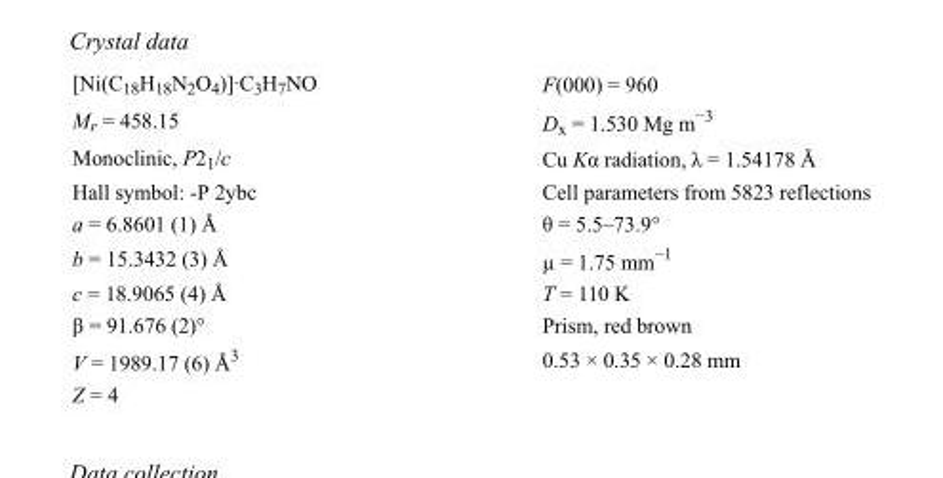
<table><tbody><tr><td>[Ni(C<sub>18</sub>H<sub>18</sub>N<sub>2</sub>O<sub>4</sub>)]·C<sub>3</sub>H<sub>7</sub>NO</td><td>F(000) = 960</td></tr><tr><td>M<sub>r</sub> = 458.15</td><td>D<sub>x</sub> = 1.530 Mg m<sup>−3</sup></td></tr><tr><td>Monoclinic, P2<sub>1</sub>/c</td><td>Cu Kα radiation, λ = 1.54178 Å</td></tr><tr><td>Hall symbol: -P 2ybc</td><td>Cell parameters from 5823 reflections</td></tr><tr><td>a = 6.8601 (1) Å</td><td>θ = 5.5–73.9°</td></tr><tr><td>b = 15.3432 (3) Å</td><td>µ = 1.75 mm<sup>−1</sup></td></tr><tr><td>c = 18.9065 (4) Å</td><td>T = 110 K</td></tr><tr><td>β = 91.676 (2)°</td><td>Prism, red brown</td></tr><tr><td>V = 1989.17 (6) Å<sup>3</sup></td><td>0.53 × 0.35 × 0.28 mm</td></tr><tr><td>Z = 4</td><td></td></tr></tbody></table>